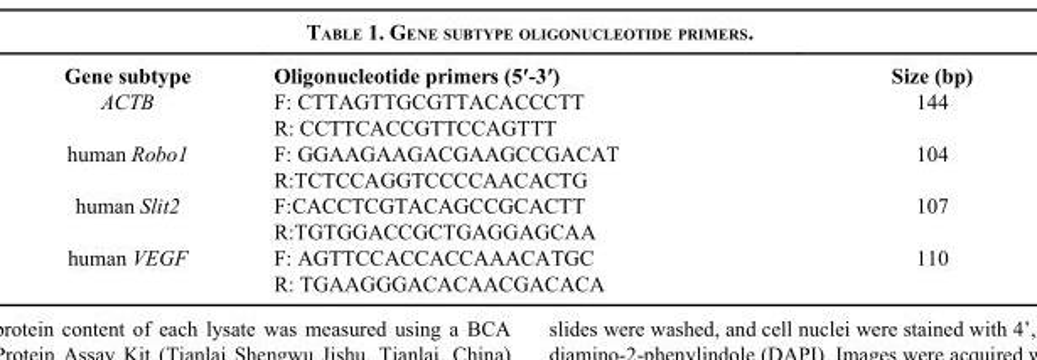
<table><thead><tr><td>Gene subtype</td><td>Oligonucleotide primers (5′-3′)</td><td>Size (bp)</td></tr></thead><tbody><tr><td rowspan="2">ACTB</td><td>F: CTTAGTTGCGTTACACCCTT</td><td>144</td></tr><tr><td>R: CCTTCACCGTTCCAGTTT</td><td></td></tr><tr><td rowspan="2">human Robo1</td><td>F: GGAAGAAGACGAAGCCGACAT</td><td>104</td></tr><tr><td>R:TCTCCAGGTCCCCAACACTG</td><td></td></tr><tr><td rowspan="2">human Slit2</td><td>F:CACCTCGTACAGCCGCACTT</td><td>107</td></tr><tr><td>R:TGTGGACCGCTGAGGAGCAA</td><td></td></tr><tr><td rowspan="2">human VEGF</td><td>F: AGTTCCACCACCAAACATGC</td><td>110</td></tr><tr><td>R: TGAAGGGACACAACGACACA</td><td></td></tr></tbody></table>